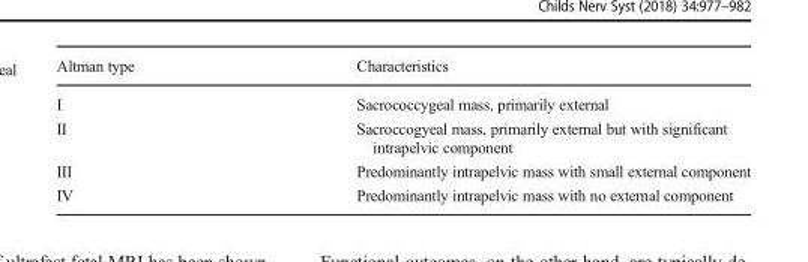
<table><thead><tr><td>Altman type</td><td>Characteristics</td></tr></thead><tbody><tr><td>I</td><td>Sacrococcygeal mass, primarily external</td></tr><tr><td>II</td><td>Sacroccogyeal mass, primarily external but with significant intrapelvic component</td></tr><tr><td>III</td><td>Predominantly intrapelvic mass with small external component</td></tr><tr><td>IV</td><td>Predominantly intrapelvic mass with no external component</td></tr></tbody></table>